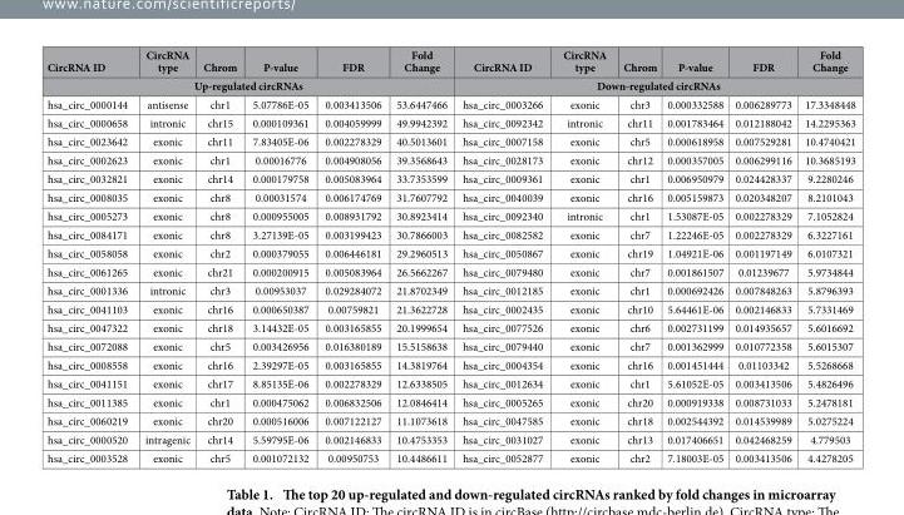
<table><thead><tr><td>CircRNA ID</td><td>CircRNA type</td><td>Chrom</td><td>P-value</td><td>FDR</td><td>Fold Change</td><td>CircRNA ID</td><td>CircRNA type</td><td>Chrom</td><td>P-value</td><td>FDR</td><td>Fold Change</td></tr><tr><td colspan="6">Up-regulated circRNAs</td><td colspan="6">Down-regulated circRNAs</td></tr></thead><tbody><tr><td>hsa_circ_0000144</td><td>antisense</td><td>chr1</td><td>5.07786E-05</td><td>0.003413506</td><td>53.6447466</td><td>hsa_circ_0003266</td><td>exonic</td><td>chr3</td><td>0.000332588</td><td>0.006289773</td><td>17.3348448</td></tr><tr><td>hsa_circ_0000658</td><td>intronic</td><td>chr15</td><td>0.000109361</td><td>0.004059999</td><td>49.9942392</td><td>hsa_circ_0092342</td><td>intronic</td><td>chr11</td><td>0.001783464</td><td>0.012188042</td><td>14.2295363</td></tr><tr><td>hsa_circ_0023642</td><td>exonic</td><td>chr11</td><td>7.83405E-06</td><td>0.002278329</td><td>40.5013601</td><td>hsa_circ_0007158</td><td>exonic</td><td>chr5</td><td>0.000618958</td><td>0.007529281</td><td>10.4740421</td></tr><tr><td>hsa_circ_0002623</td><td>exonic</td><td>chr1</td><td>0.00016776</td><td>0.004908056</td><td>39.3568643</td><td>hsa_circ_0028173</td><td>exonic</td><td>chr12</td><td>0.000357005</td><td>0.006299116</td><td>10.3685193</td></tr><tr><td>hsa_circ_0032821</td><td>exonic</td><td>chr14</td><td>0.000179758</td><td>0.005083964</td><td>33.7353599</td><td>hsa_circ_0009361</td><td>exonic</td><td>chr1</td><td>0.006950979</td><td>0.024428337</td><td>9.2280246</td></tr><tr><td>hsa_circ_0008035</td><td>exonic</td><td>chr8</td><td>0.00031574</td><td>0.006174769</td><td>31.7607792</td><td>hsa_circ_0040039</td><td>exonic</td><td>chr16</td><td>0.005159873</td><td>0.020348207</td><td>8.2101043</td></tr><tr><td>hsa_circ_0005273</td><td>exonic</td><td>chr8</td><td>0.000955005</td><td>0.008931792</td><td>30.8923414</td><td>hsa_circ_0092340</td><td>intronic</td><td>chr1</td><td>1.53087E-05</td><td>0.002278329</td><td>7.1052824</td></tr><tr><td>hsa_circ_0084171</td><td>exonic</td><td>chr8</td><td>3.27139E-05</td><td>0.003199423</td><td>30.7866003</td><td>hsa_circ_0082582</td><td>exonic</td><td>chr7</td><td>1.22246E-05</td><td>0.002278329</td><td>6.3227161</td></tr><tr><td>hsa_circ_0058058</td><td>exonic</td><td>chr2</td><td>0.000379055</td><td>0.006446181</td><td>29.2960513</td><td>hsa_circ_0050867</td><td>exonic</td><td>chr19</td><td>1.04921E-06</td><td>0.001197149</td><td>6.0107321</td></tr><tr><td>hsa_circ_0061265</td><td>exonic</td><td>chr21</td><td>0.000200915</td><td>0.005083964</td><td>26.5662267</td><td>hsa_circ_0079480</td><td>exonic</td><td>chr7</td><td>0.001861507</td><td>0.01239677</td><td>5.9734844</td></tr><tr><td>hsa_circ_0001336</td><td>intronic</td><td>chr3</td><td>0.00953037</td><td>0.029284072</td><td>21.8702349</td><td>hsa_circ_0012185</td><td>exonic</td><td>chr1</td><td>0.000692426</td><td>0.007848263</td><td>5.8796393</td></tr><tr><td>hsa_circ_0041103</td><td>exonic</td><td>chr16</td><td>0.000650387</td><td>0.00759821</td><td>21.3622728</td><td>hsa_circ_0002435</td><td>exonic</td><td>chr10</td><td>5.64461E-06</td><td>0.002146833</td><td>5.7331469</td></tr><tr><td>hsa_circ_0047322</td><td>exonic</td><td>chr18</td><td>3.14432E-05</td><td>0.003165855</td><td>20.1999654</td><td>hsa_circ_0077526</td><td>exonic</td><td>chr6</td><td>0.002731199</td><td>0.014935657</td><td>5.6016692</td></tr><tr><td>hsa_circ_0072088</td><td>exonic</td><td>chr5</td><td>0.003426956</td><td>0.016380189</td><td>15.5158638</td><td>hsa_circ_0079440</td><td>exonic</td><td>chr7</td><td>0.001362999</td><td>0.010772358</td><td>5.6015307</td></tr><tr><td>hsa_circ_0008558</td><td>exonic</td><td>chr16</td><td>2.39297E-05</td><td>0.003165855</td><td>14.3819764</td><td>hsa_circ_0004354</td><td>exonic</td><td>chr16</td><td>0.001451444</td><td>0.01103342</td><td>5.5268668</td></tr><tr><td>hsa_circ_0041151</td><td>exonic</td><td>chr17</td><td>8.85135E-06</td><td>0.002278329</td><td>12.6338505</td><td>hsa_circ_0012634</td><td>exonic</td><td>chr1</td><td>5.61052E-05</td><td>0.003413506</td><td>5.4826496</td></tr><tr><td>hsa_circ_0011385</td><td>exonic</td><td>chr1</td><td>0.000475062</td><td>0.006832506</td><td>12.0846414</td><td>hsa_circ_0005265</td><td>exonic</td><td>chr20</td><td>0.000919338</td><td>0.008731033</td><td>5.2478181</td></tr><tr><td>hsa_circ_0060219</td><td>exonic</td><td>chr20</td><td>0.000516006</td><td>0.007122127</td><td>11.1073618</td><td>hsa_circ_0047585</td><td>exonic</td><td>chr18</td><td>0.002544392</td><td>0.014539989</td><td>5.0275224</td></tr><tr><td>hsa_circ_0000520</td><td>intragenic</td><td>chr14</td><td>5.59795E-06</td><td>0.002146833</td><td>10.4753353</td><td>hsa_circ_0031027</td><td>exonic</td><td>chr13</td><td>0.017406651</td><td>0.042468259</td><td>4.779503</td></tr><tr><td>hsa_circ_0003528</td><td>exonic</td><td>chr5</td><td>0.001072132</td><td>0.00950753</td><td>10.4486611</td><td>hsa_circ_0052877</td><td>exonic</td><td>chr2</td><td>7.18003E-05</td><td>0.003413506</td><td>4.4278205</td></tr></tbody></table>